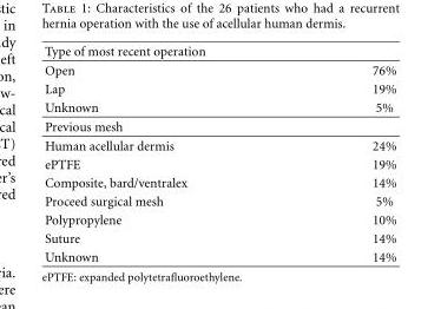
<table><thead><tr><td colspan="2">Type of most recent operation</td></tr><tr><td>Open</td><td>76%</td></tr></thead><tbody><tr><td>Lap</td><td>19%</td></tr><tr><td>Unknown</td><td>5%</td></tr><tr><td colspan="2">Previous mesh</td></tr><tr><td>Human acellular dermis</td><td>24%</td></tr><tr><td>ePTFE</td><td>19%</td></tr><tr><td>Composite, bard/ventralex</td><td>14%</td></tr><tr><td>Proceed surgical mesh</td><td>5%</td></tr><tr><td>Polypropylene</td><td>10%</td></tr><tr><td>Suture</td><td>14%</td></tr><tr><td>Unknown</td><td>14%</td></tr></tbody></table>